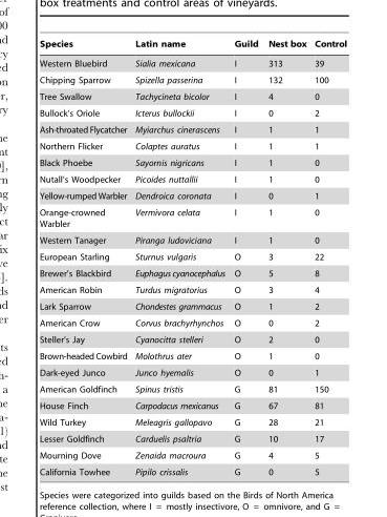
<table><thead><tr><td>Species</td><td>Latin name</td><td>Guild</td><td>Nest box</td><td>Control</td></tr></thead><tbody><tr><td>Western Bluebird</td><td>Sialia mexicana</td><td>I</td><td>313</td><td>39</td></tr><tr><td>Chipping Sparrow</td><td>Spizella passerina</td><td>I</td><td>132</td><td>100</td></tr><tr><td>Tree Swallow</td><td>Tachycineta bicolor</td><td>I</td><td>4</td><td>0</td></tr><tr><td>Bullock’s Oriole</td><td>Icterus bullockii</td><td>I</td><td>0</td><td>2</td></tr><tr><td>Ash-throated Flycatcher</td><td>Myiarchus cinerascens</td><td>I</td><td>1</td><td>1</td></tr><tr><td>Northern Flicker</td><td>Colaptes auratus</td><td>I</td><td>1</td><td>1</td></tr><tr><td>Black Phoebe</td><td>Sayornis nigricans</td><td>I</td><td>1</td><td>0</td></tr><tr><td>Nutall’s Woodpecker</td><td>Picoides nuttallii</td><td>I</td><td>1</td><td>0</td></tr><tr><td>Yellow-rumped Warbler</td><td>Dendroica coronata</td><td>I</td><td>0</td><td>1</td></tr><tr><td>Orange-crowned Warbler</td><td>Vermivora celata</td><td>I</td><td>1</td><td>0</td></tr><tr><td>Western Tanager</td><td>Piranga ludoviciana</td><td>I</td><td>1</td><td>0</td></tr><tr><td>European Starling</td><td>Sturnus vulgaris</td><td>O</td><td>3</td><td>22</td></tr><tr><td>Brewer’s Blackbird</td><td>Euphagus cyanocephalus</td><td>O</td><td>5</td><td>8</td></tr><tr><td>American Robin</td><td>Turdus migratorius</td><td>O</td><td>3</td><td>4</td></tr><tr><td>Lark Sparrow</td><td>Chondestes grammacus</td><td>O</td><td>1</td><td>2</td></tr><tr><td>American Crow</td><td>Corvus brachyrhynchos</td><td>O</td><td>0</td><td>2</td></tr><tr><td>Steller’s Jay</td><td>Cyanocitta stelleri</td><td>O</td><td>2</td><td>0</td></tr><tr><td>Brown-headed Cowbird</td><td>Molothrus ater</td><td>O</td><td>1</td><td>0</td></tr><tr><td>Dark-eyed Junco</td><td>Junco hyemalis</td><td>O</td><td>0</td><td>1</td></tr><tr><td>American Goldfinch</td><td>Spinus tristis</td><td>G</td><td>81</td><td>150</td></tr><tr><td>House Finch</td><td>Carpodacus mexicanus</td><td>G</td><td>67</td><td>81</td></tr><tr><td>Wild Turkey</td><td>Meleagris gallopavo</td><td>G</td><td>28</td><td>21</td></tr><tr><td>Lesser Goldfinch</td><td>Carduelis psaltria</td><td>G</td><td>10</td><td>17</td></tr><tr><td>Mourning Dove</td><td>Zenaida macroura</td><td>G</td><td>4</td><td>5</td></tr><tr><td>California Towhee</td><td>Pipilo crissalis</td><td>G</td><td>0</td><td>5</td></tr></tbody></table>